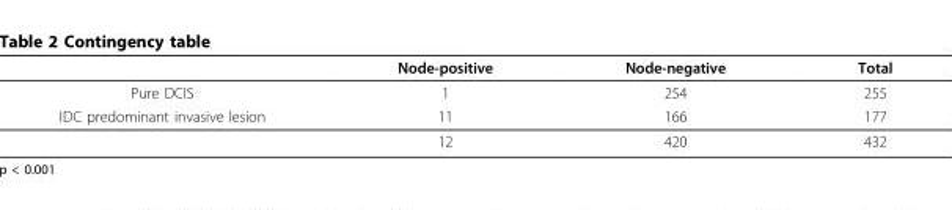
<table><thead><tr><td></td><td>Node-positive</td><td>Node-negative</td><td>Total</td></tr></thead><tbody><tr><td>Pure DCIS</td><td>1</td><td>254</td><td>255</td></tr><tr><td rowspan="2">IDC predominant invasive lesion</td><td>11</td><td>166</td><td>177</td></tr><tr><td>12</td><td>420</td><td>432</td></tr></tbody></table>